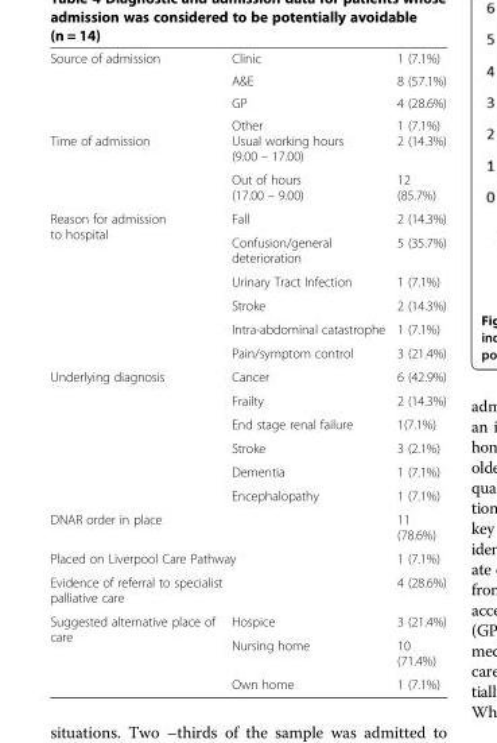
<table><tbody><tr><td rowspan="4">Source of admission</td><td>Clinic</td><td>1 (7.1%)</td></tr><tr><td>A&amp;E</td><td>8 (57.1%)</td></tr><tr><td>GP</td><td>4 (28.6%)</td></tr><tr><td>Other</td><td>1 (7.1%)</td></tr><tr><td rowspan="2">Time of admission</td><td>Usual working hours (9.00 – 17.00)</td><td>2 (14.3%)</td></tr><tr><td>Out of hours (17.00 – 9.00)</td><td>12 (85.7%)</td></tr><tr><td rowspan="6">Reason for admission to hospital</td><td>Fall</td><td>2 (14.3%)</td></tr><tr><td>Confusion/general deterioration</td><td>5 (35.7%)</td></tr><tr><td>Urinary Tract Infection</td><td>1 (7.1%)</td></tr><tr><td>Stroke</td><td>2 (14.3%)</td></tr><tr><td>Intra-abdominal catastrophe</td><td>1 (7.1%)</td></tr><tr><td>Pain/symptom control</td><td>3 (21.4%)</td></tr><tr><td rowspan="6">Underlying diagnosis</td><td>Cancer</td><td>6 (42.9%)</td></tr><tr><td>Frailty</td><td>2 (14.3%)</td></tr><tr><td>End stage renal failure</td><td>1(7.1%)</td></tr><tr><td>Stroke</td><td>3 (2.1%)</td></tr><tr><td>Dementia</td><td>1 (7.1%)</td></tr><tr><td>Encephalopathy</td><td>1 (7.1%)</td></tr><tr><td colspan="2">DNAR order in place</td><td>11 (78.6%)</td></tr><tr><td colspan="2">Placed on Liverpool Care Pathway</td><td>1 (7.1%)</td></tr><tr><td colspan="2">Evidence of referral to specialist palliative care</td><td>4 (28.6%)</td></tr><tr><td rowspan="3">Suggested alternative place of care</td><td>Hospice</td><td>3 (21.4%)</td></tr><tr><td>Nursing home</td><td>10 (71.4%)</td></tr><tr><td>Own home</td><td>1 (7.1%)</td></tr></tbody></table>